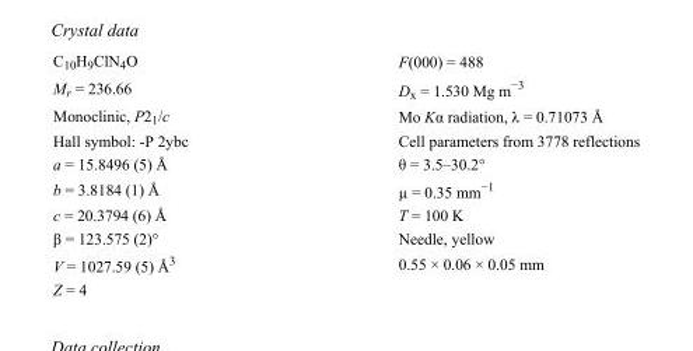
<table><tbody><tr><td>C<sub>10</sub>H<sub>9</sub>ClN<sub>4</sub>O</td><td>F(000) = 488</td></tr><tr><td>M<sub>r</sub> = 236.66</td><td>D<sub>x</sub> = 1.530 Mg m<sup>−3</sup></td></tr><tr><td>Monoclinic, P2<sub>1</sub>/c</td><td>Mo Kα radiation, λ = 0.71073 Å</td></tr><tr><td>Hall symbol: -P 2ybc</td><td>Cell parameters from 3778 reflections</td></tr><tr><td>a = 15.8496 (5) Å</td><td>θ = 3.5–30.2°</td></tr><tr><td>b = 3.8184 (1) Å</td><td>µ = 0.35 mm<sup>−1</sup></td></tr><tr><td>c = 20.3794 (6) Å</td><td>T = 100 K</td></tr><tr><td>β = 123.575 (2)°</td><td>Needle, yellow</td></tr><tr><td>V = 1027.59 (5) Å<sup>3</sup></td><td>0.55 × 0.06 × 0.05 mm</td></tr><tr><td>Z = 4</td><td></td></tr></tbody></table>